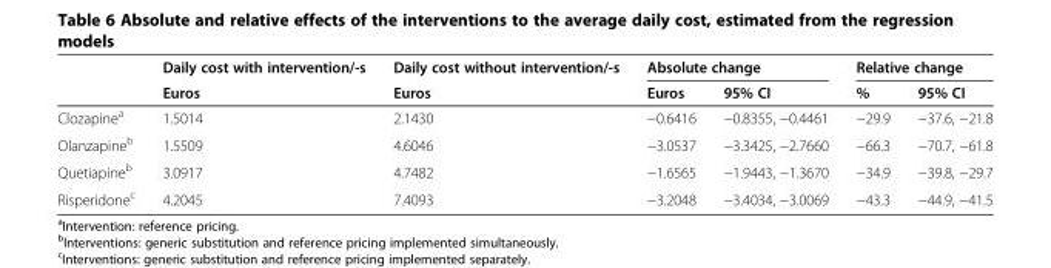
<table><thead><tr><td rowspan="2"></td><td rowspan="2">Daily cost with intervention/-s Euros</td><td rowspan="2">Daily cost without intervention/-s Euros</td><td colspan="2">Absolute change</td><td colspan="2">Relative change</td></tr><tr><td>Euros</td><td>95% CI</td><td>%</td><td>95% CI</td></tr></thead><tbody><tr><td>Clozapine<sup>a</sup></td><td>1.5014</td><td>2.1430</td><td>−0.6416</td><td>−0.8355, −0.4461</td><td>−29.9</td><td>−37.6, −21.8</td></tr><tr><td>Olanzapine<sup>b</sup></td><td>1.5509</td><td>4.6046</td><td>−3.0537</td><td>−3.3425, −2.7660</td><td>−66.3</td><td>−70.7, −61.8</td></tr><tr><td>Quetiapine<sup>b</sup></td><td>3.0917</td><td>4.7482</td><td>−1.6565</td><td>−1.9443, −1.3670</td><td>−34.9</td><td>−39.8, −29.7</td></tr><tr><td>Risperidone<sup>c</sup></td><td>4.2045</td><td>7.4093</td><td>−3.2048</td><td>−3.4034, −3.0069</td><td>−43.3</td><td>−44.9, −41.5</td></tr></tbody></table>